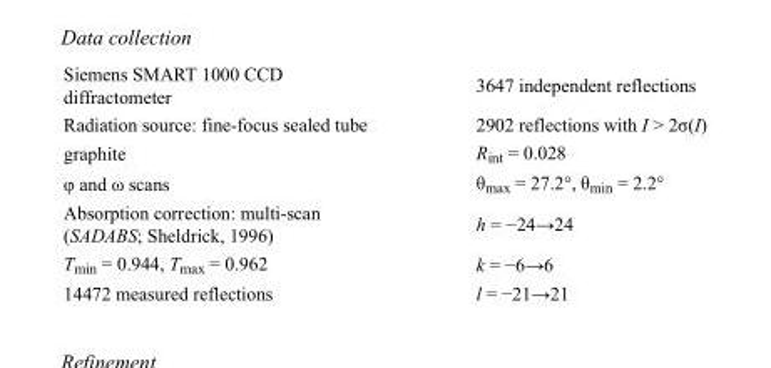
<table><tbody><tr><td>Siemens SMART 1000 CCD diffractometer</td><td>3647 independent reflections</td></tr><tr><td>Radiation source: fine-focus sealed tube</td><td>2902 reflections with I &gt; 2σ(I)</td></tr><tr><td>graphite</td><td>R<sub>int</sub> = 0.028</td></tr><tr><td>φ and ω scans</td><td>θ<sub>max</sub> = 27.2°, θ<sub>min</sub> = 2.2°</td></tr><tr><td>Absorption correction: multi-scan (SADABS; Sheldrick, 1996)</td><td>h = −24→24</td></tr><tr><td>T<sub>min</sub> = 0.944, T<sub>max</sub> = 0.962</td><td>k = −6→6</td></tr><tr><td>14472 measured reflections</td><td>l = −21→21</td></tr></tbody></table>